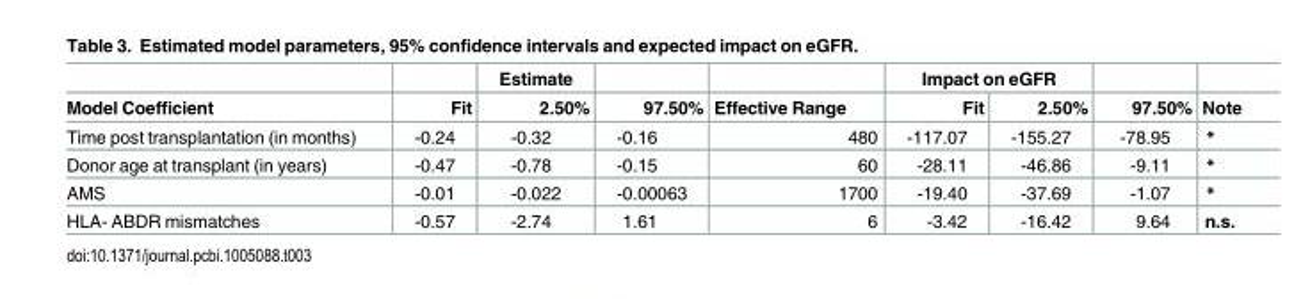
<table><thead><tr><td rowspan="2">Model Coefficient</td><td rowspan="2">Fit</td><td rowspan="2">Estimate 2.50%</td><td rowspan="2">97.50%</td><td rowspan="2">Effective Range</td><td colspan="2">Impact on eGFR</td><td rowspan="2">97.50%</td><td rowspan="2">Note</td></tr><tr><td>Fit</td><td>2.50%</td></tr></thead><tbody><tr><td>Time post transplantation (in months)</td><td>-0.24</td><td>-0.32</td><td>-0.16</td><td>480</td><td>-117.07</td><td>-155.27</td><td>-78.95</td><td>*</td></tr><tr><td>Donor age at transplant (in years)</td><td>-0.47</td><td>-0.78</td><td>-0.15</td><td>60</td><td>-28.11</td><td>-46.86</td><td>-9.11</td><td>*</td></tr><tr><td>AMS</td><td>-0.01</td><td>-0.022</td><td>-0.00063</td><td>1700</td><td>-19.40</td><td>-37.69</td><td>-1.07</td><td>*</td></tr><tr><td>HLA- ABDR mismatches</td><td>-0.57</td><td>-2.74</td><td>1.61</td><td>6</td><td>-3.42</td><td>-16.42</td><td>9.64</td><td>n.s.</td></tr></tbody></table>